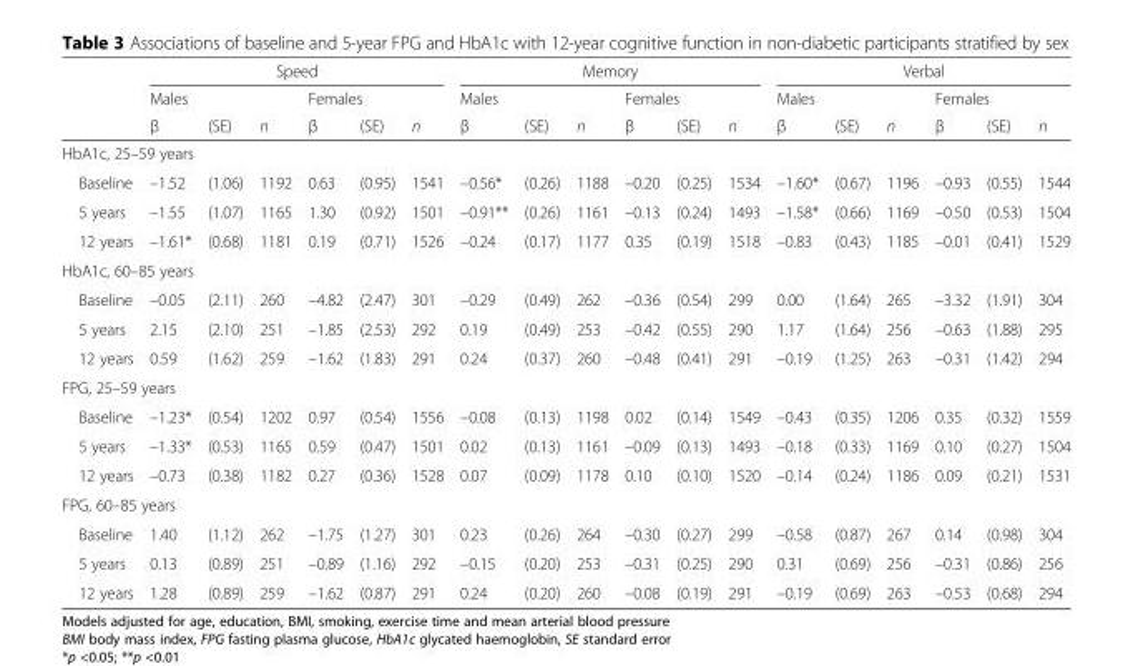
<table><thead><tr><td rowspan="3"></td><td colspan="6">Speed</td><td colspan="6">Memory</td><td colspan="6">Verbal</td></tr><tr><td colspan="3">Males</td><td colspan="3">Females</td><td colspan="3">Males</td><td colspan="3">Females</td><td colspan="3">Males</td><td colspan="3">Females</td></tr><tr><td>β</td><td>(SE)</td><td>n</td><td>β</td><td>(SE)</td><td>n</td><td>β</td><td>(SE)</td><td>n</td><td>β</td><td>(SE)</td><td>n</td><td>β</td><td>(SE)</td><td>n</td><td>β</td><td>(SE)</td><td>n</td></tr></thead><tbody><tr><td colspan="19">HbA1c, 25–59 years</td></tr><tr><td>Baseline</td><td>–1.52</td><td>(1.06)</td><td>1192</td><td>0.63</td><td>(0.95)</td><td>1541</td><td>–0.56*</td><td>(0.26)</td><td>1188</td><td>–0.20</td><td>(0.25)</td><td>1534</td><td>–1.60*</td><td>(0.67)</td><td>1196</td><td>–0.93</td><td>(0.55)</td><td>1544</td></tr><tr><td>5 years</td><td>–1.55</td><td>(1.07)</td><td>1165</td><td>1.30</td><td>(0.92)</td><td>1501</td><td>–0.91**</td><td>(0.26)</td><td>1161</td><td>–0.13</td><td>(0.24)</td><td>1493</td><td>–1.58*</td><td>(0.66)</td><td>1169</td><td>–0.50</td><td>(0.53)</td><td>1504</td></tr><tr><td>12 years</td><td>–1.61*</td><td>(0.68)</td><td>1181</td><td>0.19</td><td>(0.71)</td><td>1526</td><td>–0.24</td><td>(0.17)</td><td>1177</td><td>0.35</td><td>(0.19)</td><td>1518</td><td>–0.83</td><td>(0.43)</td><td>1185</td><td>–0.01</td><td>(0.41)</td><td>1529</td></tr><tr><td colspan="19">HbA1c, 60–85 years</td></tr><tr><td>Baseline</td><td>–0.05</td><td>(2.11)</td><td>260</td><td>–4.82</td><td>(2.47)</td><td>301</td><td>–0.29</td><td>(0.49)</td><td>262</td><td>–0.36</td><td>(0.54)</td><td>299</td><td>0.00</td><td>(1.64)</td><td>265</td><td>–3.32</td><td>(1.91)</td><td>304</td></tr><tr><td>5 years</td><td>2.15</td><td>(2.10)</td><td>251</td><td>–1.85</td><td>(2.53)</td><td>292</td><td>0.19</td><td>(0.49)</td><td>253</td><td>–0.42</td><td>(0.55)</td><td>290</td><td>1.17</td><td>(1.64)</td><td>256</td><td>–0.63</td><td>(1.88)</td><td>295</td></tr><tr><td>12 years</td><td>0.59</td><td>(1.62)</td><td>259</td><td>–1.62</td><td>(1.83)</td><td>291</td><td>0.24</td><td>(0.37)</td><td>260</td><td>–0.48</td><td>(0.41)</td><td>291</td><td>–0.19</td><td>(1.25)</td><td>263</td><td>–0.31</td><td>(1.42)</td><td>294</td></tr><tr><td colspan="19">FPG, 25–59 years</td></tr><tr><td>Baseline</td><td>–1.23*</td><td>(0.54)</td><td>1202</td><td>0.97</td><td>(0.54)</td><td>1556</td><td>–0.08</td><td>(0.13)</td><td>1198</td><td>0.02</td><td>(0.14)</td><td>1549</td><td>–0.43</td><td>(0.35)</td><td>1206</td><td>0.35</td><td>(0.32)</td><td>1559</td></tr><tr><td>5 years</td><td>–1.33*</td><td>(0.53)</td><td>1165</td><td>0.59</td><td>(0.47)</td><td>1501</td><td>0.02</td><td>(0.13)</td><td>1161</td><td>–0.09</td><td>(0.13)</td><td>1493</td><td>–0.18</td><td>(0.33)</td><td>1169</td><td>0.10</td><td>(0.27)</td><td>1504</td></tr><tr><td>12 years</td><td>–0.73</td><td>(0.38)</td><td>1182</td><td>0.27</td><td>(0.36)</td><td>1528</td><td>0.07</td><td>(0.09)</td><td>1178</td><td>0.10</td><td>(0.10)</td><td>1520</td><td>–0.14</td><td>(0.24)</td><td>1186</td><td>0.09</td><td>(0.21)</td><td>1531</td></tr><tr><td colspan="19">FPG, 60–85 years</td></tr><tr><td>Baseline</td><td>1.40</td><td>(1.12)</td><td>262</td><td>–1.75</td><td>(1.27)</td><td>301</td><td>0.23</td><td>(0.26)</td><td>264</td><td>–0.30</td><td>(0.27)</td><td>299</td><td>–0.58</td><td>(0.87)</td><td>267</td><td>0.14</td><td>(0.98)</td><td>304</td></tr><tr><td>5 years</td><td>0.13</td><td>(0.89)</td><td>251</td><td>–0.89</td><td>(1.16)</td><td>292</td><td>–0.15</td><td>(0.20)</td><td>253</td><td>–0.31</td><td>(0.25)</td><td>290</td><td>0.31</td><td>(0.69)</td><td>256</td><td>–0.31</td><td>(0.86)</td><td>256</td></tr><tr><td>12 years</td><td>1.28</td><td>(0.89)</td><td>259</td><td>–1.62</td><td>(0.87)</td><td>291</td><td>0.24</td><td>(0.20)</td><td>260</td><td>–0.08</td><td>(0.19)</td><td>291</td><td>–0.19</td><td>(0.69)</td><td>263</td><td>–0.53</td><td>(0.68)</td><td>294</td></tr></tbody></table>